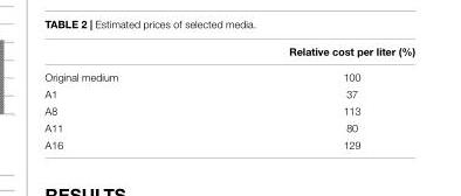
<table><thead><tr><td></td><td>Relative cost per liter (%)</td></tr></thead><tbody><tr><td>Original medium</td><td>100</td></tr><tr><td>A1</td><td>37</td></tr><tr><td>A8</td><td>113</td></tr><tr><td>A11</td><td>80</td></tr><tr><td>A16</td><td>129</td></tr></tbody></table>